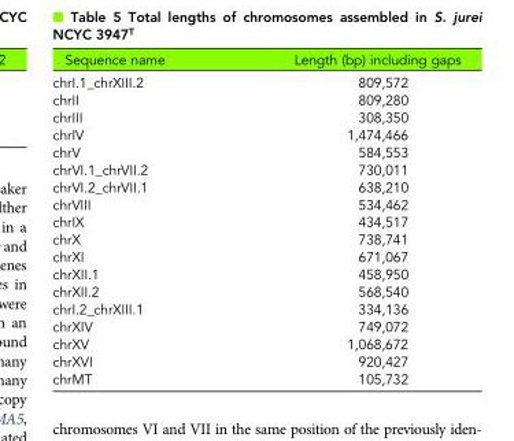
<table><thead><tr><td>Sequence name</td><td>Length (bp) including gaps</td></tr></thead><tbody><tr><td>chrI.1_chrXIII.2</td><td>809,572</td></tr><tr><td>chrII</td><td>809,280</td></tr><tr><td>chrIII</td><td>308,350</td></tr><tr><td>chrIV</td><td>1,474,466</td></tr><tr><td>chrV</td><td>584,553</td></tr><tr><td>chrVI.1_chrVII.2</td><td>730,011</td></tr><tr><td>chrVI.2_chrVII.1</td><td>638,210</td></tr><tr><td>chrVIII</td><td>534,462</td></tr><tr><td>chrIX</td><td>434,517</td></tr><tr><td>chrX</td><td>738,741</td></tr><tr><td>chrXI</td><td>671,067</td></tr><tr><td>chrXII.1</td><td>458,950</td></tr><tr><td>chrXII.2</td><td>568,540</td></tr><tr><td>chrI.2_chrXIII.1</td><td>334,136</td></tr><tr><td>chrXIV</td><td>749,072</td></tr><tr><td>chrXV</td><td>1,068,672</td></tr><tr><td>chrXVI</td><td>920,427</td></tr><tr><td>chrMT</td><td>105,732</td></tr></tbody></table>